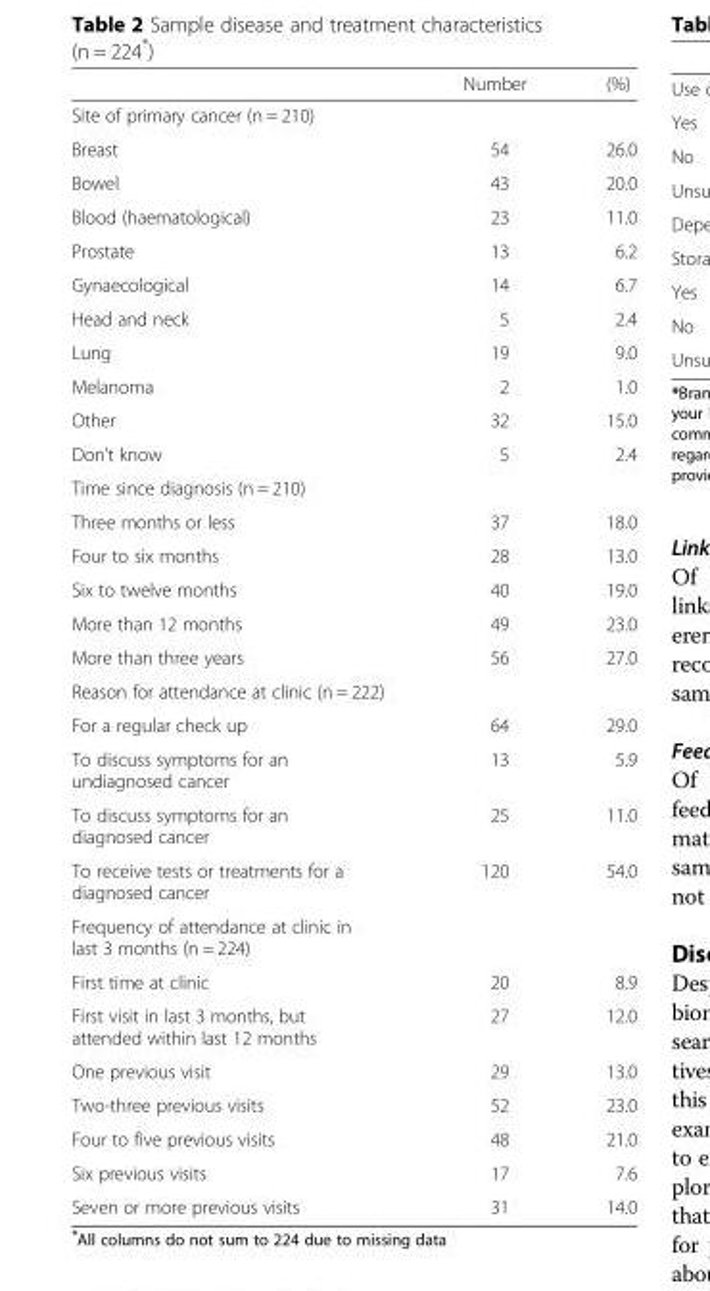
<table><thead><tr><td></td><td>Number</td><td>(%)</td></tr></thead><tbody><tr><td colspan="3">Site of primary cancer (n = 210)</td></tr><tr><td>Breast</td><td>54</td><td>26.0</td></tr><tr><td>Bowel</td><td>43</td><td>20.0</td></tr><tr><td>Blood (haematological)</td><td>23</td><td>11.0</td></tr><tr><td>Prostate</td><td>13</td><td>6.2</td></tr><tr><td>Gynaecological</td><td>14</td><td>6.7</td></tr><tr><td>Head and neck</td><td>5</td><td>2.4</td></tr><tr><td>Lung</td><td>19</td><td>9.0</td></tr><tr><td>Melanoma</td><td>2</td><td>1.0</td></tr><tr><td>Other</td><td>32</td><td>15.0</td></tr><tr><td>Don’t know</td><td>5</td><td>2.4</td></tr><tr><td colspan="3">Time since diagnosis (n = 210)</td></tr><tr><td>Three months or less</td><td>37</td><td>18.0</td></tr><tr><td>Four to six months</td><td>28</td><td>13.0</td></tr><tr><td>Six to twelve months</td><td>40</td><td>19.0</td></tr><tr><td>More than 12 months</td><td>49</td><td>23.0</td></tr><tr><td>More than three years</td><td>56</td><td>27.0</td></tr><tr><td colspan="3">Reason for attendance at clinic (n = 222)</td></tr><tr><td>For a regular check up</td><td>64</td><td>29.0</td></tr><tr><td>To discuss symptoms for an undiagnosed cancer</td><td>13</td><td>5.9</td></tr><tr><td>To discuss symptoms for an diagnosed cancer</td><td>25</td><td>11.0</td></tr><tr><td>To receive tests or treatments for a diagnosed cancer</td><td>120</td><td>54.0</td></tr><tr><td colspan="3">Frequency of attendance at clinic in last 3 months (n = 224)</td></tr><tr><td>First time at clinic</td><td>20</td><td>8.9</td></tr><tr><td>First visit in last 3 months, but attended within last 12 months</td><td>27</td><td>12.0</td></tr><tr><td>One previous visit</td><td>29</td><td>13.0</td></tr><tr><td>Two-three previous visits</td><td>52</td><td>23.0</td></tr><tr><td>Four to five previous visits</td><td>48</td><td>21.0</td></tr><tr><td>Six previous visits</td><td>17</td><td>7.6</td></tr><tr><td>Seven or more previous visits</td><td>31</td><td>14.0</td></tr></tbody></table>